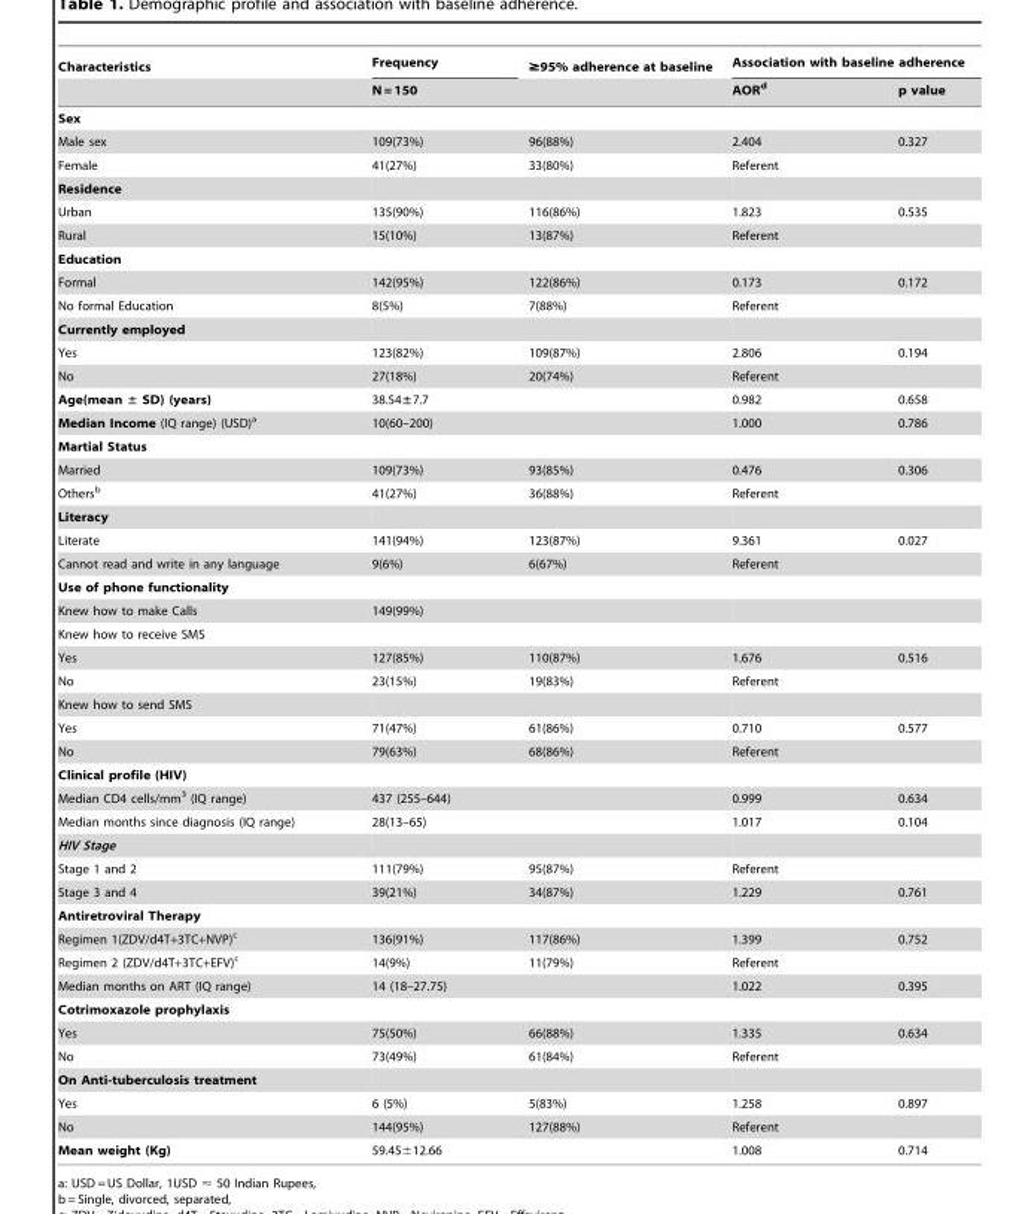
<table><thead><tr><td rowspan="2">Characteristics</td><td rowspan="2">Frequency N = 150</td><td rowspan="2">≥95% adherence at baseline</td><td colspan="2">Association with baseline adherence</td></tr><tr><td>AOR<sup>d</sup></td><td>p value</td></tr></thead><tbody><tr><td colspan="5">Sex</td></tr><tr><td>Male sex</td><td>109(73%)</td><td>96(88%)</td><td>2.404</td><td>0.327</td></tr><tr><td>Female</td><td>41(27%)</td><td>33(80%)</td><td>Referent</td><td></td></tr><tr><td colspan="5">Residence</td></tr><tr><td>Urban</td><td>135(90%)</td><td>116(86%)</td><td>1.823</td><td>0.535</td></tr><tr><td>Rural</td><td>15(10%)</td><td>13(87%)</td><td>Referent</td><td></td></tr><tr><td colspan="5">Education</td></tr><tr><td>Formal</td><td>142(95%)</td><td>122(86%)</td><td>0.173</td><td>0.172</td></tr><tr><td>No formal Education</td><td>8(5%)</td><td>7(88%)</td><td>Referent</td><td></td></tr><tr><td colspan="5">Currently employed</td></tr><tr><td>Yes</td><td>123(82%)</td><td>109(87%)</td><td>2.806</td><td>0.194</td></tr><tr><td>No</td><td>27(18%)</td><td>20(74%)</td><td>Referent</td><td></td></tr><tr><td>Age(mean ± SD) (years)</td><td>38.54±7.7</td><td></td><td>0.982</td><td>0.658</td></tr><tr><td>Median Income (IQ range) (USD)<sup>a</sup></td><td>10(60–200)</td><td></td><td>1.000</td><td>0.786</td></tr><tr><td colspan="5">Martial Status</td></tr><tr><td>Married</td><td>109(73%)</td><td>93(85%)</td><td>0.476</td><td>0.306</td></tr><tr><td>Others<sup>b</sup></td><td>41(27%)</td><td>36(88%)</td><td>Referent</td><td></td></tr><tr><td colspan="5">Literacy</td></tr><tr><td>Literate</td><td>141(94%)</td><td>123(87%)</td><td>9.361</td><td>0.027</td></tr><tr><td>Cannot read and write in any language</td><td>9(6%)</td><td>6(67%)</td><td>Referent</td><td></td></tr><tr><td colspan="5">Use of phone functionality</td></tr><tr><td>Knew how to make Calls</td><td>149(99%)</td><td></td><td></td><td></td></tr><tr><td colspan="5">Knew how to receive SMS</td></tr><tr><td>Yes</td><td>127(85%)</td><td>110(87%)</td><td>1.676</td><td>0.516</td></tr><tr><td>No</td><td>23(15%)</td><td>19(83%)</td><td>Referent</td><td></td></tr><tr><td colspan="5">Knew how to send SMS</td></tr><tr><td>Yes</td><td>71(47%)</td><td>61(86%)</td><td>0.710</td><td>0.577</td></tr><tr><td>No</td><td>79(63%)</td><td>68(86%)</td><td>Referent</td><td></td></tr><tr><td colspan="5">Clinical profile (HIV)</td></tr><tr><td>Median CD4 cells/mm<sup>3</sup> (IQ range)</td><td>437 (255–644)</td><td></td><td>0.999</td><td>0.634</td></tr><tr><td>Median months since diagnosis (IQ range)</td><td>28(13–65)</td><td></td><td>1.017</td><td>0.104</td></tr><tr><td colspan="5">HIV Stage</td></tr><tr><td>Stage 1 and 2</td><td>111(79%)</td><td>95(87%)</td><td>Referent</td><td></td></tr><tr><td>Stage 3 and 4</td><td>39(21%)</td><td>34(87%)</td><td>1.229</td><td>0.761</td></tr><tr><td colspan="5">Antiretroviral Therapy</td></tr><tr><td>Regimen 1(ZDV/d4T+3TC+NVP)<sup>c</sup></td><td>136(91%)</td><td>117(86%)</td><td>1.399</td><td>0.752</td></tr><tr><td>Regimen 2 (ZDV/d4T+3TC+EFV)<sup>c</sup></td><td>14(9%)</td><td>11(79%)</td><td>Referent</td><td></td></tr><tr><td>Median months on ART (IQ range)</td><td>14 (18–27.75)</td><td></td><td>1.022</td><td>0.395</td></tr><tr><td colspan="5">Cotrimoxazole prophylaxis</td></tr><tr><td>Yes</td><td>75(50%)</td><td>66(88%)</td><td>1.335</td><td>0.634</td></tr><tr><td>No</td><td>73(49%)</td><td>61(84%)</td><td>Referent</td><td></td></tr><tr><td colspan="5">On Anti-tuberculosis treatment</td></tr><tr><td>Yes</td><td>6 (5%)</td><td>5(83%)</td><td>1.258</td><td>0.897</td></tr><tr><td>No</td><td>144(95%)</td><td>127(88%)</td><td>Referent</td><td></td></tr><tr><td>Mean weight (Kg)</td><td>59.45±12.66</td><td></td><td>1.008</td><td>0.714</td></tr></tbody></table>